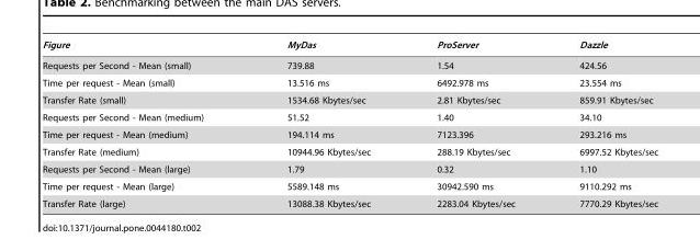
<table><thead><tr><td>Figure</td><td>MyDas</td><td>ProServer</td><td>Dazzle</td></tr></thead><tbody><tr><td>Requests per Second - Mean (small)</td><td>739.88</td><td>1.54</td><td>424.56</td></tr><tr><td>Time per request - Mean (small)</td><td>13.516 ms</td><td>6492.978 ms</td><td>23.554 ms</td></tr><tr><td>Transfer Rate (small)</td><td>1534.68 Kbytes/sec</td><td>2.81 Kbytes/sec</td><td>859.91 Kbytes/sec</td></tr><tr><td>Requests per Second - Mean (medium)</td><td>51.52</td><td>1.40</td><td>34.10</td></tr><tr><td>Time per request - Mean (medium)</td><td>194.114 ms</td><td>7123.396</td><td>293.216 ms</td></tr><tr><td>Transfer Rate (medium)</td><td>10944.96 Kbytes/sec</td><td>288.19 Kbytes/sec</td><td>6997.52 Kbytes/sec</td></tr><tr><td>Requests per Second - Mean (large)</td><td>1.79</td><td>0.32</td><td>1.10</td></tr><tr><td>Time per request - Mean (large)</td><td>5589.148 ms</td><td>30942.590 ms</td><td>9110.292 ms</td></tr><tr><td>Transfer Rate (large)</td><td>13088.38 Kbytes/sec</td><td>2283.04 Kbytes/sec</td><td>7770.29 Kbytes/sec</td></tr></tbody></table>